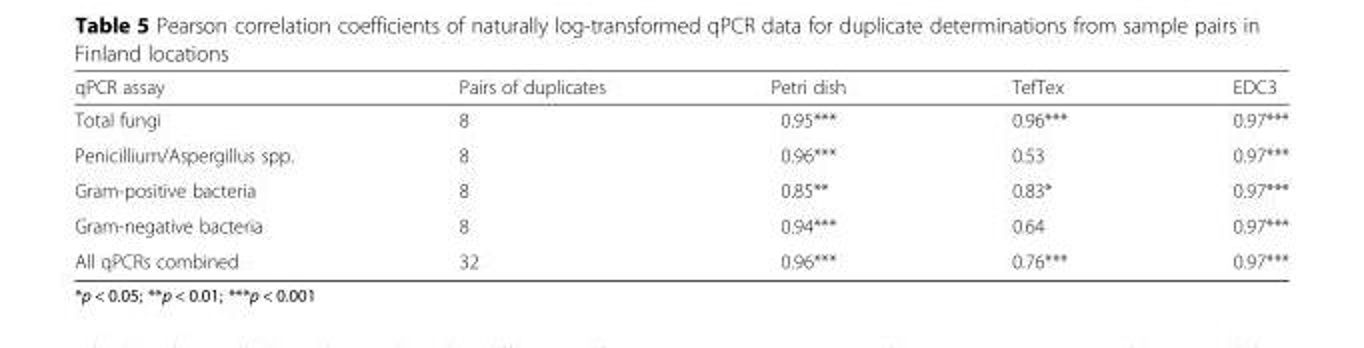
<table><thead><tr><td>qPCR assay</td><td>Pairs of duplicates</td><td>Petri dish</td><td>TefTex</td><td>EDC3</td></tr></thead><tbody><tr><td>Total fungi</td><td>8</td><td>0.95***</td><td>0.96***</td><td>0.97***</td></tr><tr><td>Penicillium/Aspergillus spp.</td><td>8</td><td>0.96***</td><td>0.53</td><td>0.97***</td></tr><tr><td>Gram-positive bacteria</td><td>8</td><td>0.85**</td><td>0.83*</td><td>0.97***</td></tr><tr><td>Gram-negative bacteria</td><td>8</td><td>0.94***</td><td>0.64</td><td>0.97***</td></tr><tr><td>All qPCRs combined</td><td>32</td><td>0.96***</td><td>0.76***</td><td>0.97***</td></tr></tbody></table>